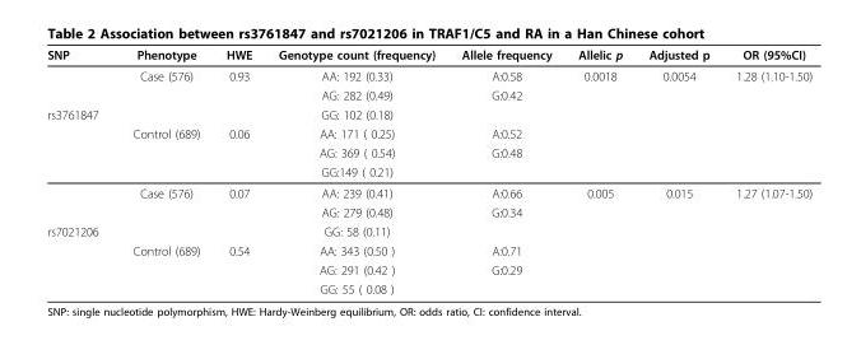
<table><thead><tr><td>SNP</td><td>Phenotype</td><td>HWE</td><td>Genotype count (frequency)</td><td>Allele frequency</td><td>Allelic p</td><td>Adjusted p</td><td>OR (95%CI)</td></tr></thead><tbody><tr><td></td><td>Case (576)</td><td>0.93</td><td>AA: 192 (0.33)</td><td>A:0.58</td><td>0.0018</td><td>0.0054</td><td>1.28 (1.10-1.50)</td></tr><tr><td></td><td></td><td></td><td>AG: 282 (0.49)</td><td>G:0.42</td><td></td><td></td><td></td></tr><tr><td rowspan="6">rs3761847</td><td></td><td></td><td>GG: 102 (0.18)</td><td></td><td></td><td></td><td></td></tr><tr><td>Control (689)</td><td>0.06</td><td>AA: 171 ( 0.25)</td><td>A:0.52</td><td></td><td></td><td></td></tr><tr><td></td><td></td><td>AG: 369 ( 0.54)</td><td>G:0.48</td><td></td><td></td><td></td></tr><tr><td></td><td></td><td>GG:149 ( 0.21)</td><td></td><td></td><td></td><td></td></tr><tr><td>Case (576)</td><td>0.07</td><td>AA: 239 (0.41)</td><td>A:0.66</td><td>0.005</td><td>0.015</td><td>1.27 (1.07-1.50)</td></tr><tr><td></td><td></td><td>AG: 279 (0.48)</td><td>G:0.34</td><td></td><td></td><td></td></tr><tr><td rowspan="4">rs7021206</td><td></td><td></td><td>GG: 58 (0.11)</td><td></td><td></td><td></td><td></td></tr><tr><td>Control (689)</td><td>0.54</td><td>AA: 343 (0.50 )</td><td>A:0.71</td><td></td><td></td><td></td></tr><tr><td></td><td></td><td>AG: 291 (0.42 )</td><td>G:0.29</td><td></td><td></td><td></td></tr><tr><td></td><td></td><td>GG: 55 ( 0.08 )</td><td></td><td></td><td></td><td></td></tr></tbody></table>